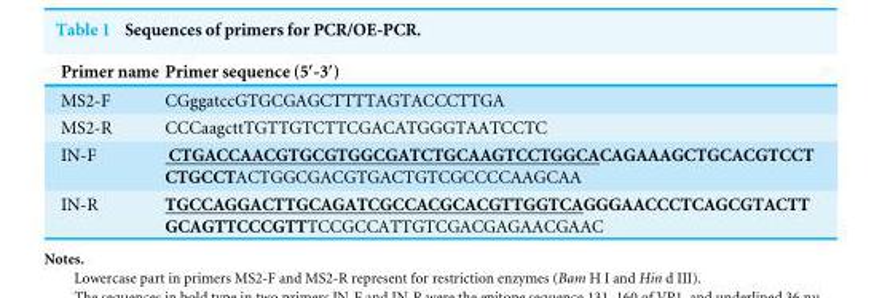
<table><thead><tr><td>Primer name</td><td>Primer sequence (5′-3′)</td></tr></thead><tbody><tr><td>MS2-F</td><td>CGggatccGTGCGAGCTTTTAGTACCCTTGA</td></tr><tr><td>MS2-R</td><td>CCCaagcttTGTTGTCTTCGACATGGGTAATCCTC</td></tr><tr><td>IN-F</td><td>CTGACCAACGTGCGTGGCGATCTGCAAGTCCTGGCACAGAAAGCTGCACGTCCT CTGCCTACTGGCGACGTGACTGTCGCCCCAAGCAA</td></tr><tr><td>IN-R</td><td>TGCCAGGACTTGCAGATCGCCACGCACGTTGGTCAGGGAACCCTCAGCGTACTT GCAGTTCCCGTTTCCGCCATTGTCGACGAGAACGAAC</td></tr></tbody></table>